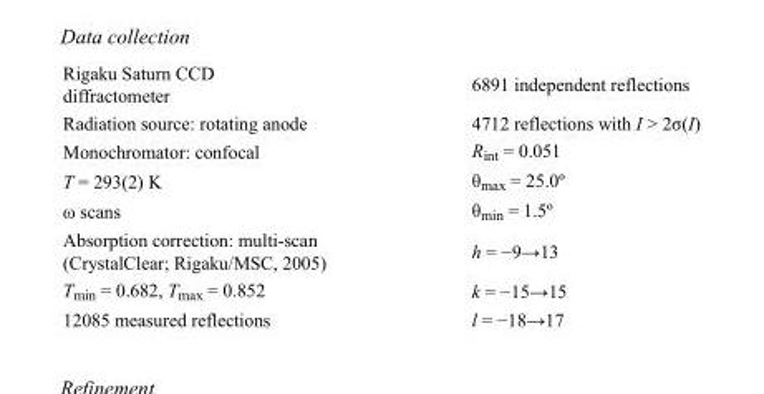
<table><tbody><tr><td>Rigaku Saturn CCD diffractometer</td><td>6891 independent reflections</td></tr><tr><td>Radiation source: rotating anode</td><td>4712 reflections with I &gt; 2σ(I)</td></tr><tr><td>Monochromator: confocal</td><td>R<sub>int</sub> = 0.051</td></tr><tr><td>T = 293(2) K</td><td>θ<sub>max</sub> = 25.0º</td></tr><tr><td>ω scans</td><td>θ<sub>min</sub> = 1.5º</td></tr><tr><td>Absorption correction: multi-scan (CrystalClear; Rigaku/MSC, 2005)</td><td>h = −9→13</td></tr><tr><td>T<sub>min</sub> = 0.682, T<sub>max</sub> = 0.852</td><td>k = −15→15</td></tr><tr><td>12085 measured reflections</td><td>l = −18→17</td></tr></tbody></table>